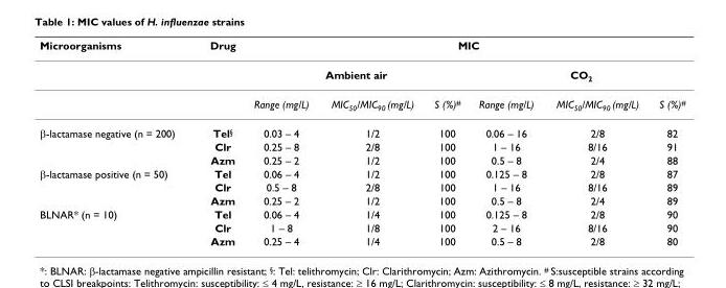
<table><thead><tr><td rowspan="3">Microorganisms</td><td rowspan="3">Drug</td><td colspan="6">MIC</td></tr><tr><td colspan="3">Ambient air</td><td colspan="3">CO<sub>2</sub></td></tr><tr><td>Range (mg/L)</td><td>MIC<sub>50</sub>/MIC<sub>90</sub> (mg/L)</td><td>S (%)<sup>#</sup></td><td>Range (mg/L)</td><td>MIC<sub>50</sub>/MIC<sub>90</sub> (mg/L)</td><td>S (%)<sup>#</sup></td></tr></thead><tbody><tr><td rowspan="3">β-lactamase negative (n = 200)</td><td>Tel<sup>§</sup></td><td>0.03 – 4</td><td>1/2</td><td>100</td><td>0.06 – 16</td><td>2/8</td><td>82</td></tr><tr><td>Clr</td><td>0.25 – 8</td><td>2/8</td><td>100</td><td>1 – 16</td><td>8/16</td><td>91</td></tr><tr><td>Azm</td><td>0.25 – 2</td><td>1/2</td><td>100</td><td>0.5 – 8</td><td>2/4</td><td>88</td></tr><tr><td rowspan="3">β-lactamase positive (n = 50)</td><td>Tel</td><td>0.06 – 4</td><td>1/2</td><td>100</td><td>0.125 – 8</td><td>2/8</td><td>87</td></tr><tr><td>Clr</td><td>0.5 – 8</td><td>2/8</td><td>100</td><td>1 – 16</td><td>8/16</td><td>89</td></tr><tr><td>Azm</td><td>0.25 – 2</td><td>1/2</td><td>100</td><td>0.5 – 8</td><td>2/4</td><td>89</td></tr><tr><td rowspan="3">BLNAR* (n = 10)</td><td>Tel</td><td>0.06 – 4</td><td>1/4</td><td>100</td><td>0.125 – 8</td><td>2/8</td><td>90</td></tr><tr><td>Clr</td><td>1 – 8</td><td>1/8</td><td>100</td><td>2 – 16</td><td>8/16</td><td>90</td></tr><tr><td>Azm</td><td>0.25 – 4</td><td>1/4</td><td>100</td><td>0.5 – 8</td><td>2/8</td><td>80</td></tr></tbody></table>